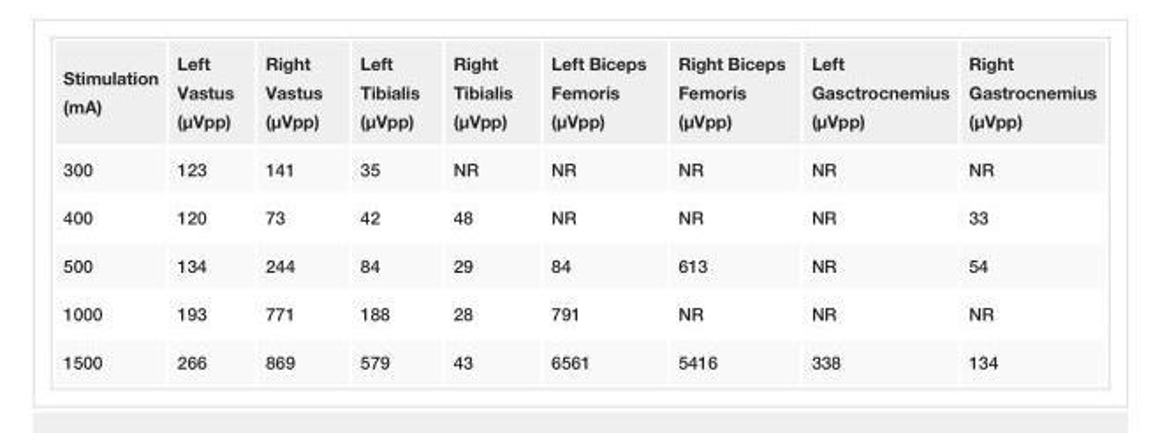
<table><tbody><tr><td>Stimulation (mA)</td><td>Left Vastus (µVpp)</td><td>Right Vastus (µVpp)</td><td>Left Tibialis (µVpp)</td><td>Right Tibialis (µVpp)</td><td>Left Biceps Femoris (µVpp)</td><td>Right Biceps Femoris (µVpp)</td><td>Left Gasctrocnemius (µVpp)</td><td>Right Gastrocnemius (µVpp)</td></tr><tr><td>300</td><td>123</td><td>141</td><td>35</td><td>NR</td><td>NR</td><td>NR</td><td>NR</td><td>NR</td></tr><tr><td>400</td><td>120</td><td>73</td><td>42</td><td>48</td><td>NR</td><td>NR</td><td>NR</td><td>33</td></tr><tr><td>500</td><td>134</td><td>244</td><td>84</td><td>29</td><td>84</td><td>613</td><td>NR</td><td>54</td></tr><tr><td>1000</td><td>193</td><td>771</td><td>188</td><td>28</td><td>791</td><td>NR</td><td>NR</td><td>NR</td></tr><tr><td>1500</td><td>266</td><td>869</td><td>579</td><td>43</td><td>6561</td><td>5416</td><td>338</td><td>134</td></tr></tbody></table>